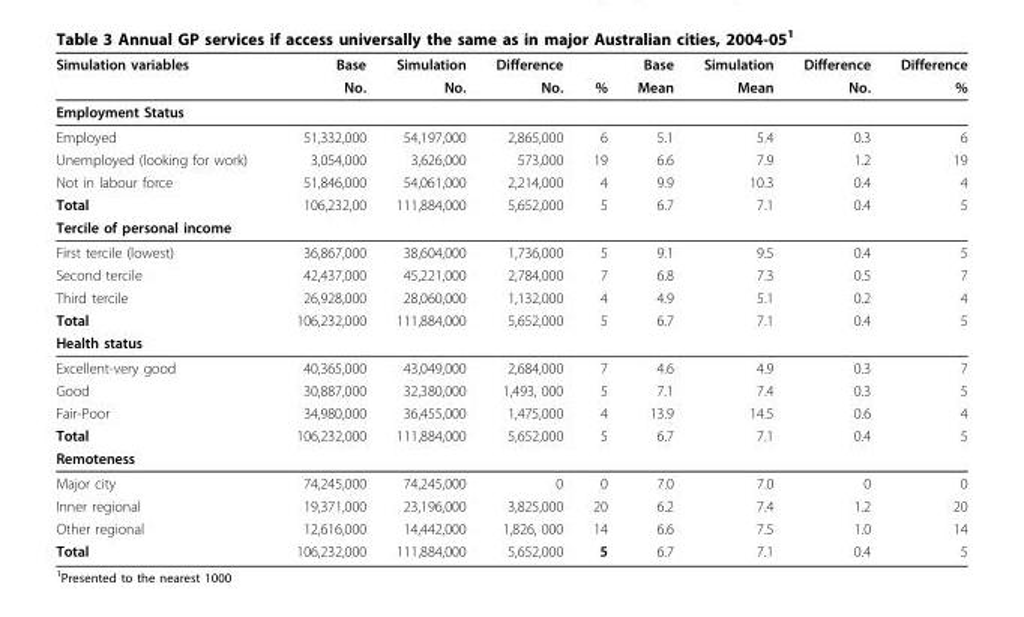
<table><thead><tr><td rowspan="2">Simulation variables</td><td rowspan="2">Base No.</td><td rowspan="2">Simulation No.</td><td rowspan="2">Difference No.</td><td rowspan="2">%</td><td rowspan="2">Base Mean</td><td rowspan="2">Simulation Mean</td><td rowspan="2">Difference No.</td><td rowspan="2">Difference %</td></tr><tr></tr></thead><tbody><tr><td colspan="9">Employment Status</td></tr><tr><td>Employed</td><td>51,332,000</td><td>54,197,000</td><td>2,865,000</td><td>6</td><td>5.1</td><td>5.4</td><td>0.3</td><td>6</td></tr><tr><td>Unemployed (looking for work)</td><td>3,054,000</td><td>3,626,000</td><td>573,000</td><td>19</td><td>6.6</td><td>7.9</td><td>1.2</td><td>19</td></tr><tr><td>Not in labour force</td><td>51,846,000</td><td>54,061,000</td><td>2,214,000</td><td>4</td><td>9.9</td><td>10.3</td><td>0.4</td><td>4</td></tr><tr><td>Total</td><td>106,232,00</td><td>111,884,000</td><td>5,652,000</td><td>5</td><td>6.7</td><td>7.1</td><td>0.4</td><td>5</td></tr><tr><td colspan="9">Tercile of personal income</td></tr><tr><td>First tercile (lowest)</td><td>36,867,000</td><td>38,604,000</td><td>1,736,000</td><td>5</td><td>9.1</td><td>9.5</td><td>0.4</td><td>5</td></tr><tr><td>Second tercile</td><td>42,437,000</td><td>45,221,000</td><td>2,784,000</td><td>7</td><td>6.8</td><td>7.3</td><td>0.5</td><td>7</td></tr><tr><td>Third tercile</td><td>26,928,000</td><td>28,060,000</td><td>1,132,000</td><td>4</td><td>4.9</td><td>5.1</td><td>0.2</td><td>4</td></tr><tr><td>Total</td><td>106,232,000</td><td>111,884,000</td><td>5,652,000</td><td>5</td><td>6.7</td><td>7.1</td><td>0.4</td><td>5</td></tr><tr><td colspan="9">Health status</td></tr><tr><td>Excellent-very good</td><td>40,365,000</td><td>43,049,000</td><td>2,684,000</td><td>7</td><td>4.6</td><td>4.9</td><td>0.3</td><td>7</td></tr><tr><td>Good</td><td>30,887,000</td><td>32,380,000</td><td>1,493, 000</td><td>5</td><td>7.1</td><td>7.4</td><td>0.3</td><td>5</td></tr><tr><td>Fair-Poor</td><td>34,980,000</td><td>36,455,000</td><td>1,475,000</td><td>4</td><td>13.9</td><td>14.5</td><td>0.6</td><td>4</td></tr><tr><td>Total</td><td>106,232,000</td><td>111,884,000</td><td>5,652,000</td><td>5</td><td>6.7</td><td>7.1</td><td>0.4</td><td>5</td></tr><tr><td colspan="9">Remoteness</td></tr><tr><td>Major city</td><td>74,245,000</td><td>74,245,000</td><td>0</td><td>0</td><td>7.0</td><td>7.0</td><td>0</td><td>0</td></tr><tr><td>Inner regional</td><td>19,371,000</td><td>23,196,000</td><td>3,825,000</td><td>20</td><td>6.2</td><td>7.4</td><td>1.2</td><td>20</td></tr><tr><td>Other regional</td><td>12,616,000</td><td>14,442,000</td><td>1,826, 000</td><td>14</td><td>6.6</td><td>7.5</td><td>1.0</td><td>14</td></tr><tr><td>Total</td><td>106,232,000</td><td>111,884,000</td><td>5,652,000</td><td>5</td><td>6.7</td><td>7.1</td><td>0.4</td><td>5</td></tr></tbody></table>